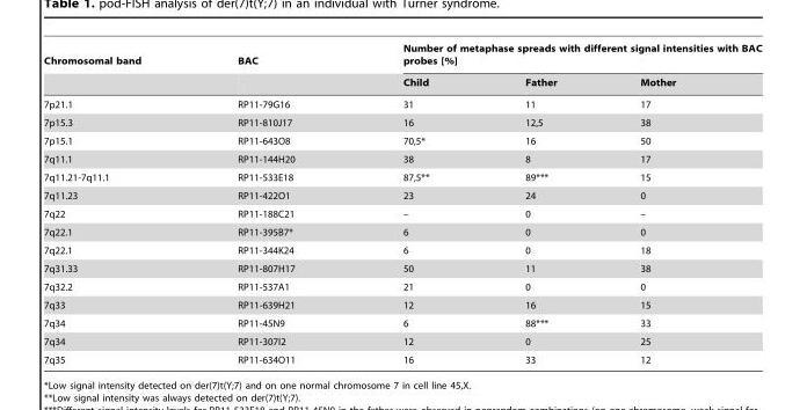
<table><thead><tr><td rowspan="2">Chromosomal band</td><td rowspan="2">BAC</td><td colspan="3">Number of metaphase spreads with different signal intensities with BAC probes [%]</td></tr><tr><td>Child</td><td>Father</td><td>Mother</td></tr></thead><tbody><tr><td>7p21.1</td><td>RP11-79G16</td><td>31</td><td>11</td><td>17</td></tr><tr><td>7p15.3</td><td>RP11-810J17</td><td>16</td><td>12,5</td><td>38</td></tr><tr><td>7p15.1</td><td>RP11-643O8</td><td>70,5*</td><td>16</td><td>50</td></tr><tr><td>7q11.1</td><td>RP11-144H20</td><td>38</td><td>8</td><td>17</td></tr><tr><td>7q11.21-7q11.1</td><td>RP11-533E18</td><td>87,5**</td><td>89***</td><td>15</td></tr><tr><td>7q11.23</td><td>RP11-422O1</td><td>23</td><td>24</td><td>0</td></tr><tr><td>7q22</td><td>RP11-188C21</td><td>–</td><td>0</td><td>–</td></tr><tr><td>7q22.1</td><td>RP11-395B7*</td><td>6</td><td>0</td><td>0</td></tr><tr><td>7q22.1</td><td>RP11-344K24</td><td>6</td><td>0</td><td>18</td></tr><tr><td>7q31.33</td><td>RP11-807H17</td><td>50</td><td>11</td><td>38</td></tr><tr><td>7q32.2</td><td>RP11-537A1</td><td>21</td><td>0</td><td>0</td></tr><tr><td>7q33</td><td>RP11-639H21</td><td>12</td><td>16</td><td>15</td></tr><tr><td>7q34</td><td>RP11-45N9</td><td>6</td><td>88***</td><td>33</td></tr><tr><td>7q34</td><td>RP11-307I2</td><td>12</td><td>0</td><td>25</td></tr><tr><td>7q35</td><td>RP11-634O11</td><td>16</td><td>33</td><td>12</td></tr></tbody></table>